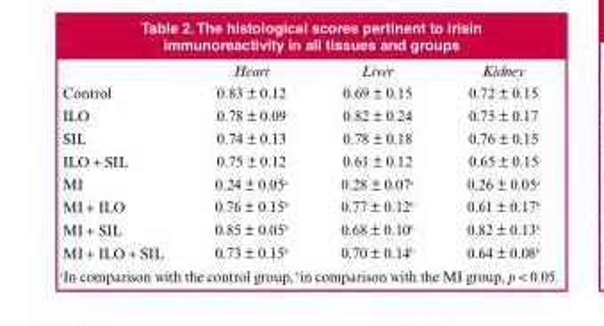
<table><thead><tr><td></td><td>Heart</td><td>Liver</td><td>Kidney</td></tr></thead><tbody><tr><td>Control</td><td>0.83 ± 0.12</td><td>0.69 ± 0.15</td><td>0.72 ± 0.15</td></tr><tr><td>ILO</td><td>0.78 ± 0.09</td><td>0.82 ± 0.24</td><td>0.75 ± 0.17</td></tr><tr><td>SIL</td><td>0.74 ± 0.13</td><td>0.78 ± 0.18</td><td>0.76 ± 0.15</td></tr><tr><td>ILO + SIL</td><td>0.75 ± 0.12</td><td>0.61 ± 0.12</td><td>0.65 ± 0.15</td></tr><tr><td>MI</td><td>0.24 ± 0.05<sup>a</sup></td><td>0.28 ± 0.07<sup>a</sup></td><td>0.26 ± 0.05<sup>a</sup></td></tr><tr><td>MI + ILO</td><td>0.76 ± 0.15<sup>b</sup></td><td>0.77 ± 0.12<sup>b</sup></td><td>0.61 ± 0.17<sup>b</sup></td></tr><tr><td>MI + SIL</td><td>0.85 ± 0.05<sup>b</sup></td><td>0.68 ± 0.10<sup>b</sup></td><td>0.82 ± 0.13<sup>b</sup></td></tr><tr><td>MI + ILO + SIL</td><td>0.73 ± 0.15<sup>b</sup></td><td>0.70 ± 0.14<sup>b</sup></td><td>0.64 ± 0.08<sup>b</sup></td></tr></tbody></table>